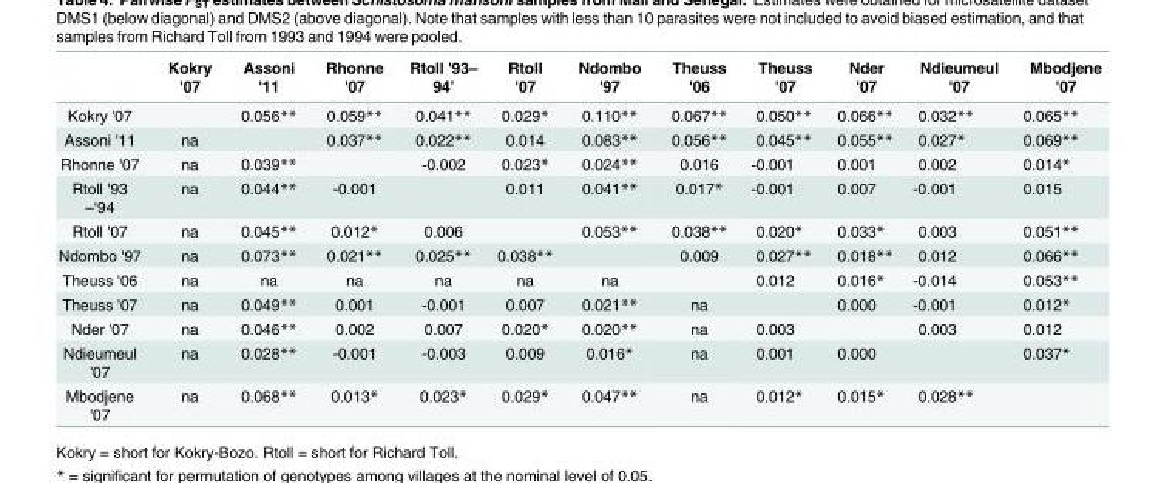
<table><thead><tr><td></td><td>Kokry &#x27;07</td><td>Assoni &#x27;11</td><td>Rhonne &#x27;07</td><td>Rtoll &#x27;93– 94’</td><td>Rtoll &#x27;07</td><td>Ndombo &#x27;97</td><td>Theuss &#x27;06</td><td>Theuss &#x27;07</td><td>Nder &#x27;07</td><td>Ndieumeul &#x27;07</td><td>Mbodjene &#x27;07</td></tr></thead><tbody><tr><td>Kokry &#x27;07</td><td></td><td>0.056**</td><td>0.059**</td><td>0.041**</td><td>0.029*</td><td>0.110**</td><td>0.067**</td><td>0.050**</td><td>0.066**</td><td>0.032**</td><td>0.065**</td></tr><tr><td>Assoni &#x27;11</td><td>na</td><td></td><td>0.037**</td><td>0.022**</td><td>0.014</td><td>0.083**</td><td>0.056**</td><td>0.045**</td><td>0.055**</td><td>0.027*</td><td>0.069**</td></tr><tr><td>Rhonne &#x27;07</td><td>na</td><td>0.039**</td><td></td><td>-0.002</td><td>0.023*</td><td>0.024**</td><td>0.016</td><td>-0.001</td><td>0.001</td><td>0.002</td><td>0.014*</td></tr><tr><td>Rtoll &#x27;93 –‘94</td><td>na</td><td>0.044**</td><td>-0.001</td><td></td><td>0.011</td><td>0.041**</td><td>0.017*</td><td>-0.001</td><td>0.007</td><td>-0.001</td><td>0.015</td></tr><tr><td>Rtoll &#x27;07</td><td>na</td><td>0.045**</td><td>0.012*</td><td>0.006</td><td></td><td>0.053**</td><td>0.038**</td><td>0.020*</td><td>0.033*</td><td>0.003</td><td>0.051**</td></tr><tr><td>Ndombo &#x27;97</td><td>na</td><td>0.073**</td><td>0.021**</td><td>0.025**</td><td>0.038**</td><td></td><td>0.009</td><td>0.027**</td><td>0.018**</td><td>0.012</td><td>0.066**</td></tr><tr><td>Theuss &#x27;06</td><td>na</td><td>na</td><td>na</td><td>na</td><td>na</td><td>na</td><td></td><td>0.012</td><td>0.016*</td><td>-0.014</td><td>0.053**</td></tr><tr><td>Theuss &#x27;07</td><td>na</td><td>0.049**</td><td>0.001</td><td>-0.001</td><td>0.007</td><td>0.021**</td><td>na</td><td></td><td>0.000</td><td>-0.001</td><td>0.012*</td></tr><tr><td>Nder &#x27;07</td><td>na</td><td>0.046**</td><td>0.002</td><td>0.007</td><td>0.020*</td><td>0.020**</td><td>na</td><td>0.003</td><td></td><td>0.003</td><td>0.012</td></tr><tr><td>Ndieumeul &#x27;07</td><td>na</td><td>0.028**</td><td>-0.001</td><td>-0.003</td><td>0.009</td><td>0.016*</td><td>na</td><td>0.001</td><td>0.000</td><td></td><td>0.037*</td></tr><tr><td>Mbodjene &#x27;07</td><td>na</td><td>0.068**</td><td>0.013*</td><td>0.023*</td><td>0.029*</td><td>0.047**</td><td>na</td><td>0.012*</td><td>0.015*</td><td>0.028**</td><td></td></tr></tbody></table>